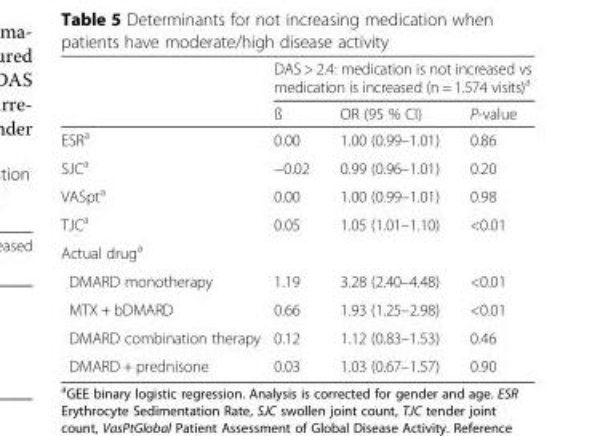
<table><thead><tr><td rowspan="2"></td><td colspan="3">DAS &gt; 2.4: medication is not increased vs medication is increased (n = 1.574 visits)<sup>a</sup></td></tr><tr><td>ß</td><td>OR (95 % CI)</td><td>P-value</td></tr></thead><tbody><tr><td>ESR<sup>a</sup></td><td>0.00</td><td>1.00 (0.99–1.01)</td><td>0.86</td></tr><tr><td>SJC<sup>a</sup></td><td>−0.02</td><td>0.99 (0.96–1.01)</td><td>0.20</td></tr><tr><td>VASpt<sup>a</sup></td><td>0.00</td><td>1.00 (0.99–1.01)</td><td>0.98</td></tr><tr><td>TJC<sup>a</sup></td><td>0.05</td><td>1.05 (1.01–1.10)</td><td>&lt;0.01</td></tr><tr><td colspan="4">Actual drug<sup>a</sup></td></tr><tr><td>DMARD monotherapy</td><td>1.19</td><td>3.28 (2.40–4.48)</td><td>&lt;0.01</td></tr><tr><td>MTX + bDMARD</td><td>0.66</td><td>1.93 (1.25–2.98)</td><td>&lt;0.01</td></tr><tr><td>DMARD combination therapy</td><td>0.12</td><td>1.12 (0.83–1.53)</td><td>0.46</td></tr><tr><td>DMARD + prednisone</td><td>0.03</td><td>1.03 (0.67–1.57)</td><td>0.90</td></tr></tbody></table>